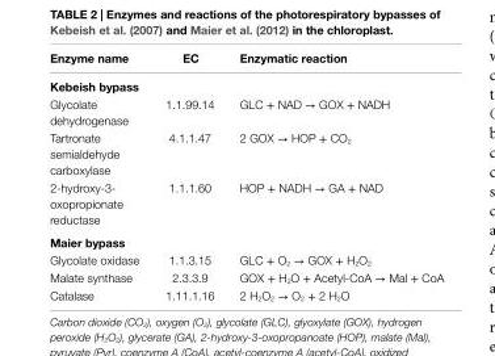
<table><thead><tr><td>enzyme name</td><td>ec</td><td>enzymatic reaction</td></tr></thead><tbody><tr><td colspan="3">Kebeish bypass</td></tr><tr><td>Glycolate dehydrogenase</td><td>1.1.99.14</td><td>GLC + NAD → GOX + NADH</td></tr><tr><td>Tartronate semialdehyde carboxylase</td><td>4.1.1.47</td><td>2 GOX → HOP + CO<sub>2</sub></td></tr><tr><td>2-hydroxy-3- oxopropionate reductase</td><td>1.1.1.60</td><td>HOP + NADH → GA + NAD</td></tr><tr><td colspan="3">Maier bypass</td></tr><tr><td>Glycolate oxidase</td><td>1.1.3.15</td><td>GLC + O<sub>2</sub> → GOX + H<sub>2</sub>O<sub>2</sub></td></tr><tr><td>Malate synthase</td><td>2.3.3.9</td><td>GOX + H<sub>2</sub>O + Acetyl-CoA → Mal + CoA</td></tr><tr><td>Catalase</td><td>1.11.1.16</td><td>2 H<sub>2</sub>O<sub>2</sub> → O<sub>2</sub> + 2 H<sub>2</sub>O</td></tr></tbody></table>